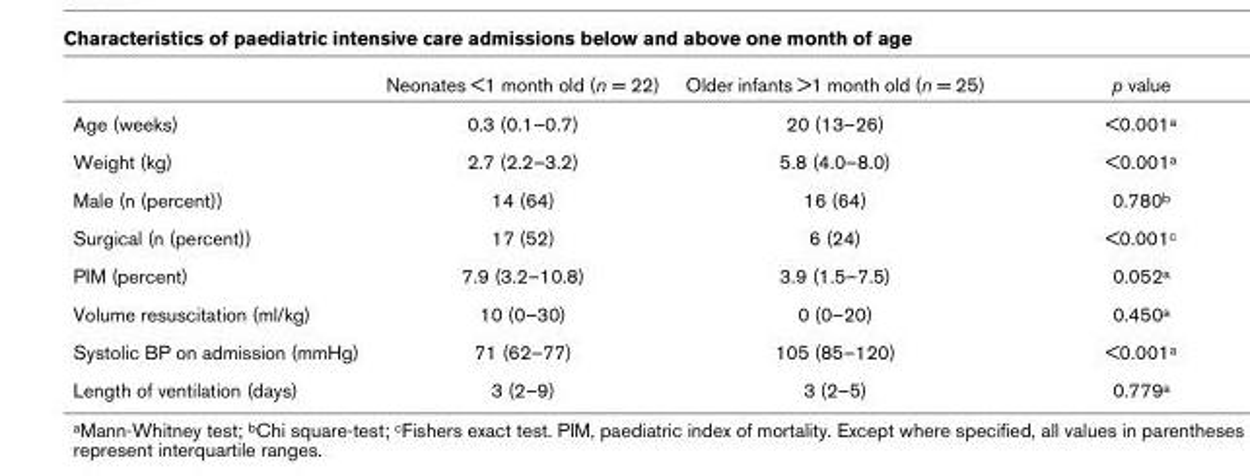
<table><thead><tr><td></td><td>Neonates &lt;1 month old (n = 22)</td><td>Older infants &gt;1 month old (n = 25)</td><td>p value</td></tr></thead><tbody><tr><td>Age (weeks)</td><td>0.3 (0.1–0.7)</td><td>20 (13–26)</td><td>&lt;0.001a</td></tr><tr><td>Weight (kg)</td><td>2.7 (2.2–3.2)</td><td>5.8 (4.0–8.0)</td><td>&lt;0.001a</td></tr><tr><td>Male (n (percent))</td><td>14 (64)</td><td>16 (64)</td><td>0.780b</td></tr><tr><td>Surgical (n (percent))</td><td>17 (52)</td><td>6 (24)</td><td>&lt;0.001c</td></tr><tr><td>PIM (percent)</td><td>7.9 (3.2–10.8)</td><td>3.9 (1.5–7.5)</td><td>0.052a</td></tr><tr><td>Volume resuscitation (ml/kg)</td><td>10 (0–30)</td><td>0 (0–20)</td><td>0.450a</td></tr><tr><td>Systolic BP on admission (mmHg)</td><td>71 (62–77)</td><td>105 (85–120)</td><td>&lt;0.001a</td></tr><tr><td>Length of ventilation (days)</td><td>3 (2–9)</td><td>3 (2–5)</td><td>0.779a</td></tr></tbody></table>